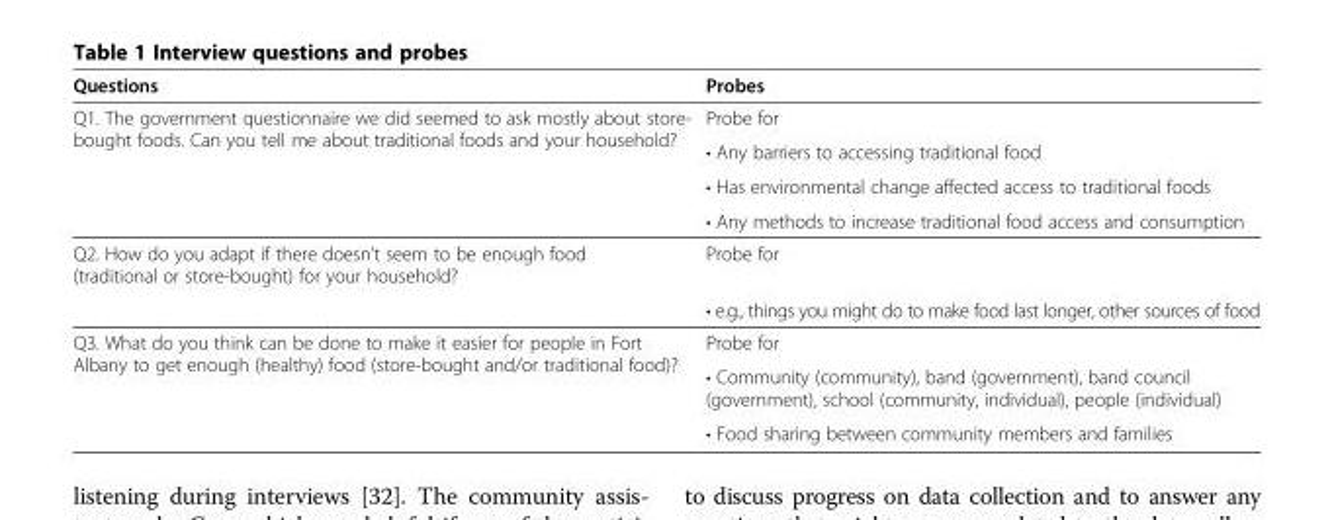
<table><thead><tr><td>Questions</td><td>Probes</td></tr></thead><tbody><tr><td rowspan="4">Q1. The government questionnaire we did seemed to ask mostly about store- bought foods. Can you tell me about traditional foods and your household?</td><td>Probe for</td></tr><tr><td>• Any barriers to accessing traditional food</td></tr><tr><td>• Has environmental change affected access to traditional foods</td></tr><tr><td>• Any methods to increase traditional food access and consumption</td></tr><tr><td rowspan="2">Q2. How do you adapt if there doesn’t seem to be enough food (traditional or store-bought) for your household?</td><td>Probe for</td></tr><tr><td>• e.g., things you might do to make food last longer, other sources of food</td></tr><tr><td rowspan="3">Q3. What do you think can be done to make it easier for people in Fort Albany to get enough (healthy) food (store-bought and/or traditional food)?</td><td>Probe for</td></tr><tr><td>• Community (community), band (government), band council (government), school (community, individual), people (individual)</td></tr><tr><td>• Food sharing between community members and families</td></tr></tbody></table>